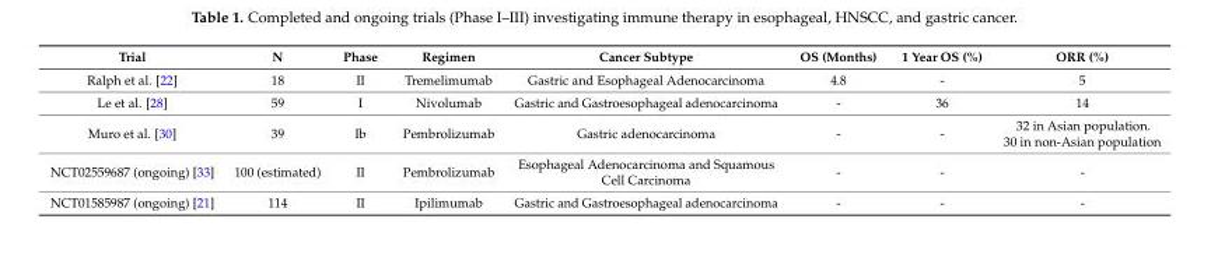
<table><thead><tr><td>Trial</td><td>N</td><td>Phase</td><td>Regimen</td><td>Cancer Subtype</td><td>OS (Months)</td><td>1 Year OS (%)</td><td>ORR (%)</td></tr></thead><tbody><tr><td>Ralph et al. [22]</td><td>18</td><td>II</td><td>Tremelimumab</td><td>Gastric and Esophageal Adenocarcinoma</td><td>4.8</td><td>-</td><td>5</td></tr><tr><td>Le et al. [28]</td><td>59</td><td>I</td><td>Nivolumab</td><td>Gastric and Gastroesophageal adenocarcinoma</td><td>-</td><td>36</td><td>14</td></tr><tr><td>Muro et al. [30]</td><td>39</td><td>Ib</td><td>Pembrolizumab</td><td>Gastric adenocarcinoma</td><td>-</td><td>-</td><td>32 in Asian population. 30 in non-Asian population</td></tr><tr><td>NCT02559687 (ongoing) [33]</td><td>100 (estimated)</td><td>II</td><td>Pembrolizumab</td><td>Esophageal Adenocarcinoma and Squamous Cell Carcinoma</td><td>-</td><td>-</td><td>-</td></tr><tr><td>NCT01585987 (ongoing) [21]</td><td>114</td><td>II</td><td>Ipilimumab</td><td>Gastric and Gastroesophageal adenocarcinoma</td><td>-</td><td>-</td><td>-</td></tr></tbody></table>